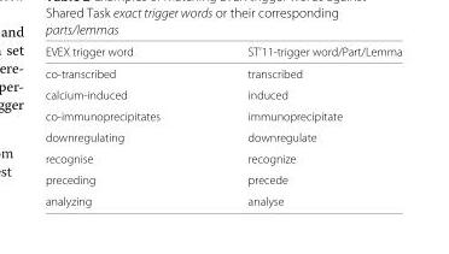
<table><thead><tr><td>EVEX trigger word</td><td>ST’11-trigger word/Part/Lemma</td></tr></thead><tbody><tr><td>co-transcribed</td><td>transcribed</td></tr><tr><td>calcium-induced</td><td>induced</td></tr><tr><td>co-immunoprecipitates</td><td>immunoprecipitate</td></tr><tr><td>downregulating</td><td>downregulate</td></tr><tr><td>recognise</td><td>recognize</td></tr><tr><td>preceding</td><td>precede</td></tr><tr><td>analyzing</td><td>analyse</td></tr></tbody></table>